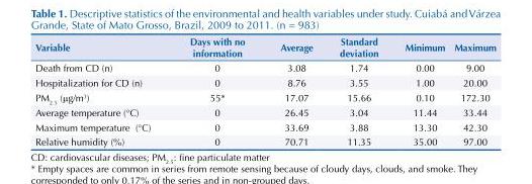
<table><thead><tr><td>Variable</td><td>Days with no information</td><td>Average</td><td>Standard deviation</td><td>Minimum</td><td>Maximum</td></tr></thead><tbody><tr><td>Death from CD (n)</td><td>0</td><td>3.08</td><td>1.74</td><td>0.00</td><td>9.00</td></tr><tr><td>Hospitalization for CD (n)</td><td>0</td><td>8.76</td><td>3.55</td><td>1.00</td><td>20.00</td></tr><tr><td>PM<sub>2.5</sub> (μg/m<sup>3</sup>)</td><td>55*</td><td>17.07</td><td>15.66</td><td>0.10</td><td>172.30</td></tr><tr><td>Average temperature (°C)</td><td>0</td><td>26.45</td><td>3.04</td><td>11.44</td><td>33.44</td></tr><tr><td>Maximum temperature (°C)</td><td>0</td><td>33.69</td><td>3.88</td><td>13.30</td><td>42.30</td></tr><tr><td>Relative humidity (%)</td><td>0</td><td>70.71</td><td>11.35</td><td>35.00</td><td>97.00</td></tr></tbody></table>